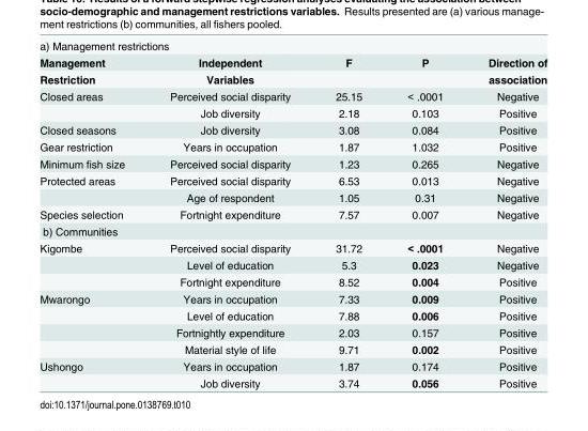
<table><tbody><tr><td colspan="5">a) Management restrictions</td></tr><tr><td>Management</td><td>Independent</td><td>F</td><td>P</td><td>Direction of</td></tr><tr><td>Restriction</td><td>Variables</td><td></td><td></td><td>association</td></tr><tr><td rowspan="2">Closed areas</td><td>Perceived social disparity</td><td>25.15</td><td>&lt; .0001</td><td>Negative</td></tr><tr><td>Job diversity</td><td>2.18</td><td>0.103</td><td>Positive</td></tr><tr><td>Closed seasons</td><td>Job diversity</td><td>3.08</td><td>0.084</td><td>Positive</td></tr><tr><td>Gear restriction</td><td>Years in occupation</td><td>1.87</td><td>1.032</td><td>Positive</td></tr><tr><td>Minimum fish size</td><td>Perceived social disparity</td><td>1.23</td><td>0.265</td><td>Negative</td></tr><tr><td rowspan="2">Protected areas</td><td>Perceived social disparity</td><td>6.53</td><td>0.013</td><td>Negative</td></tr><tr><td>Age of respondent</td><td>1.05</td><td>0.31</td><td>Negative</td></tr><tr><td>Species selection</td><td>Fortnight expenditure</td><td>7.57</td><td>0.007</td><td>Negative</td></tr><tr><td colspan="5">b) Communities</td></tr><tr><td rowspan="3">Kigombe</td><td>Perceived social disparity</td><td>31.72</td><td>&lt; .0001</td><td>Negative</td></tr><tr><td>Level of education</td><td>5.3</td><td>0.023</td><td>Negative</td></tr><tr><td>Fortnight expenditure</td><td>8.52</td><td>0.004</td><td>Positive</td></tr><tr><td rowspan="4">Mwarongo</td><td>Years in occupation</td><td>7.33</td><td>0.009</td><td>Positive</td></tr><tr><td>Level of education</td><td>7.88</td><td>0.006</td><td>Positive</td></tr><tr><td>Fortnightly expenditure</td><td>2.03</td><td>0.157</td><td>Positive</td></tr><tr><td>Material style of life</td><td>9.71</td><td>0.002</td><td>Positive</td></tr><tr><td rowspan="2">Ushongo</td><td>Years in occupation</td><td>1.87</td><td>0.174</td><td>Positive</td></tr><tr><td>Job diversity</td><td>3.74</td><td>0.056</td><td>Positive</td></tr></tbody></table>